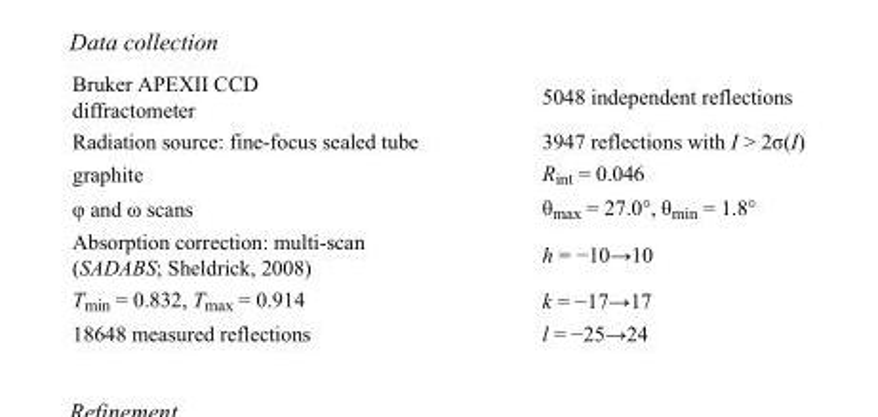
<table><tbody><tr><td>Bruker APEXII CCD diffractometer</td><td>5048 independent reflections</td></tr><tr><td>Radiation source: fine-focus sealed tube</td><td>3947 reflections with I &gt; 2σ(I)</td></tr><tr><td>graphite</td><td>R<sub>int</sub> = 0.046</td></tr><tr><td>φ and ω scans</td><td>θ<sub>max</sub> = 27.0°, θ<sub>min</sub> = 1.8°</td></tr><tr><td>Absorption correction: multi-scan (SADABS; Sheldrick, 2008)</td><td>h = −10→10</td></tr><tr><td>T<sub>min</sub> = 0.832, T<sub>max</sub> = 0.914</td><td>k = −17→17</td></tr><tr><td>18648 measured reflections</td><td>l = −25→24</td></tr></tbody></table>